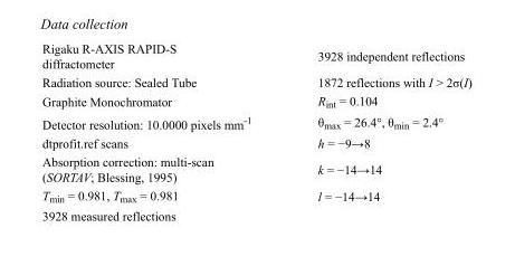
<table><tbody><tr><td>Rigaku R-AXIS RAPID-S diffractometer</td><td>3928 independent reflections</td></tr><tr><td>Radiation source: Sealed Tube</td><td>1872 reflections with I &gt; 2σ(I)</td></tr><tr><td>Graphite Monochromator</td><td>R<sub>int</sub> = 0.104</td></tr><tr><td>Detector resolution: 10.0000 pixels mm<sup>-1</sup></td><td>θ<sub>max</sub> = 26.4°, θ<sub>min</sub> = 2.4°</td></tr><tr><td>dtprofit.ref scans</td><td>h = −9→8</td></tr><tr><td>Absorption correction: multi-scan (SORTAV; Blessing, 1995)</td><td>k = −14→14</td></tr><tr><td>T<sub>min</sub> = 0.981, T<sub>max</sub> = 0.981</td><td>l = −14→14</td></tr><tr><td>3928 measured reflections</td><td></td></tr></tbody></table>